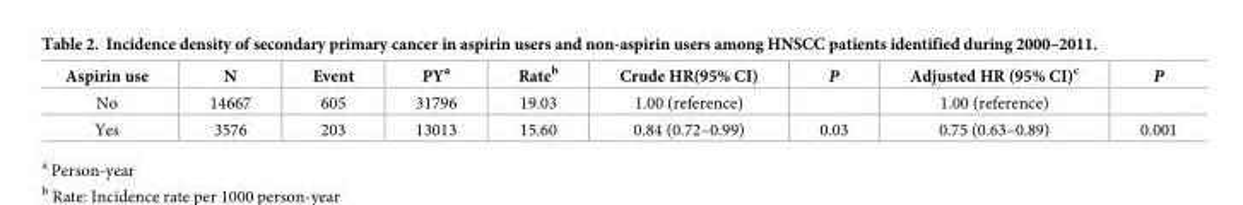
<table><thead><tr><td>Aspirin use</td><td>N</td><td>Event</td><td>PY<sup>a</sup></td><td>Rate<sup>b</sup></td><td>Crude HR(95% CI)</td><td>P</td><td>Adjusted HR (95% CI)<sup>c</sup></td><td>P</td></tr></thead><tbody><tr><td>No</td><td>14667</td><td>605</td><td>31796</td><td>19.03</td><td>1.00 (reference)</td><td></td><td>1.00 (reference)</td><td></td></tr><tr><td>Yes</td><td>3576</td><td>203</td><td>13013</td><td>15.60</td><td>0.84 (0.72–0.99)</td><td>0.03</td><td>0.75 (0.63–0.89)</td><td>0.001</td></tr></tbody></table>